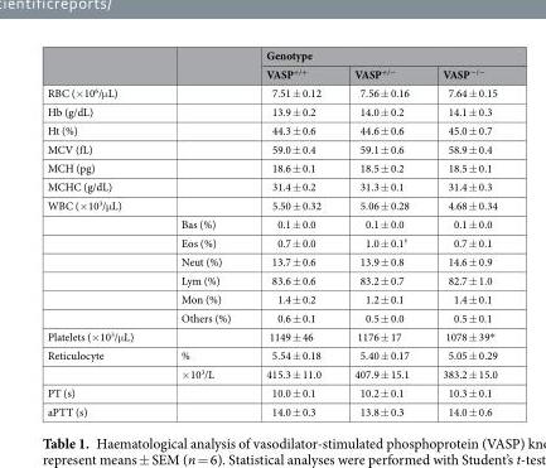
<table><thead><tr><td rowspan="2"></td><td rowspan="2"></td><td colspan="3">Genotype</td></tr><tr><td>VASP<sup>+/+</sup></td><td>VASP<sup>+/−</sup></td><td>VASP<sup>−/−</sup></td></tr></thead><tbody><tr><td>RBC (×10<sup>6</sup>/μL)</td><td></td><td>7.51 ± 0.12</td><td>7.56 ± 0.16</td><td>7.64 ± 0.15</td></tr><tr><td>Hb (g/dL)</td><td></td><td>13.9 ± 0.2</td><td>14.0 ± 0.2</td><td>14.1 ± 0.3</td></tr><tr><td>Ht (%)</td><td></td><td>44.3 ± 0.6</td><td>44.6 ± 0.6</td><td>45.0 ± 0.7</td></tr><tr><td>MCV (fL)</td><td></td><td>59.0 ± 0.4</td><td>59.1 ± 0.6</td><td>58.9 ± 0.4</td></tr><tr><td>MCH (pg)</td><td></td><td>18.6 ± 0.1</td><td>18.5 ± 0.2</td><td>18.5 ± 0.1</td></tr><tr><td>MCHC (g/dL)</td><td></td><td>31.4 ± 0.2</td><td>31.3 ± 0.1</td><td>31.4 ± 0.3</td></tr><tr><td rowspan="7">WBC (×10<sup>3</sup>/μL)</td><td></td><td>5.50 ± 0.32</td><td>5.06 ± 0.28</td><td>4.68 ± 0.34</td></tr><tr><td>Bas (%)</td><td>0.1 ± 0.0</td><td>0.1 ± 0.0</td><td>0.1 ± 0.0</td></tr><tr><td>Eos (%)</td><td>0.7 ± 0.0</td><td>1.0 ± 0.1<sup>†</sup></td><td>0.7 ± 0.1</td></tr><tr><td>Neut (%)</td><td>13.7 ± 0.6</td><td>13.9 ± 0.8</td><td>14.6 ± 0.9</td></tr><tr><td>Lym (%)</td><td>83.6 ± 0.6</td><td>83.2 ± 0.7</td><td>82.7 ± 1.0</td></tr><tr><td>Mon (%)</td><td>1.4 ± 0.2</td><td>1.2 ± 0.1</td><td>1.4 ± 0.1</td></tr><tr><td>Others (%)</td><td>0.6 ± 0.1</td><td>0.5 ± 0.0</td><td>0.5 ± 0.1</td></tr><tr><td>Platelets (×10<sup>3</sup>/μL)</td><td></td><td>1149 ± 46</td><td>1176 ± 17</td><td>1078 ± 39*</td></tr><tr><td rowspan="2">Reticulocyte</td><td>%</td><td>5.54 ± 0.18</td><td>5.40 ± 0.17</td><td>5.05 ± 0.29</td></tr><tr><td>×10<sup>3</sup>/L</td><td>415.3 ± 11.0</td><td>407.9 ± 15.1</td><td>383.2 ± 15.0</td></tr><tr><td>PT (s)</td><td></td><td>10.0 ± 0.1</td><td>10.2 ± 0.1</td><td>10.3 ± 0.1</td></tr><tr><td>aPTT (s)</td><td></td><td>14.0 ± 0.3</td><td>13.8 ± 0.3</td><td>14.0 ± 0.6</td></tr></tbody></table>